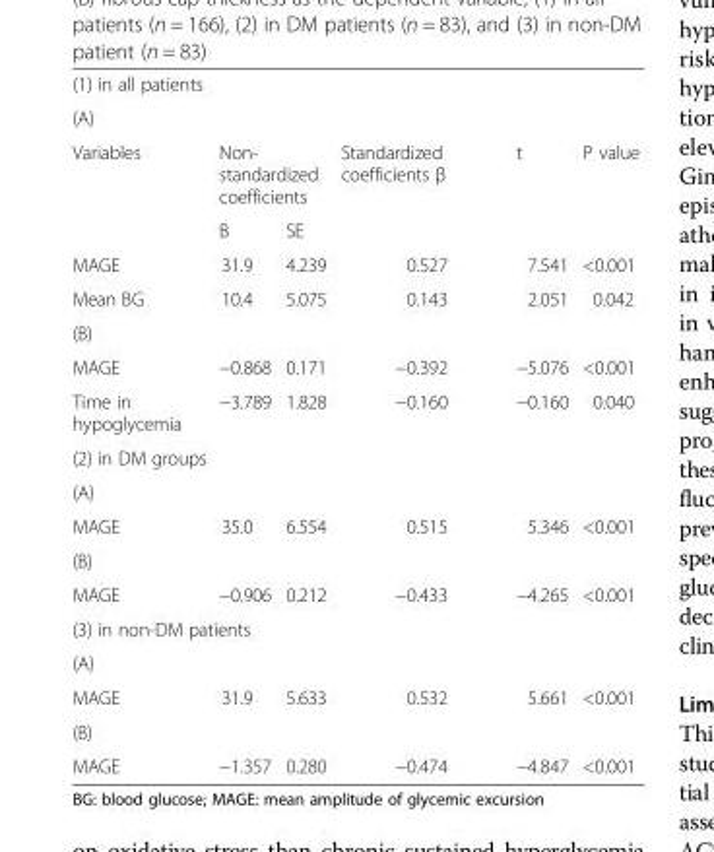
<table><tbody><tr><td colspan="6">(1) in all patients</td></tr><tr><td colspan="6">(A)</td></tr><tr><td rowspan="2">Variables</td><td colspan="2">Non- standardized coefficients</td><td rowspan="2">Standardized coefficients β</td><td rowspan="2">t</td><td rowspan="2">P value</td></tr><tr><td>B</td><td>SE</td></tr><tr><td>MAGE</td><td>31.9</td><td>4.239</td><td>0.527</td><td>7.541</td><td>&lt;0.001</td></tr><tr><td>Mean BG</td><td>10.4</td><td>5.075</td><td>0.143</td><td>2.051</td><td>0.042</td></tr><tr><td colspan="6">(B)</td></tr><tr><td>MAGE</td><td>−0.868</td><td>0.171</td><td>−0.392</td><td>−5.076</td><td>&lt;0.001</td></tr><tr><td>Time in hypoglycemia</td><td>−3.789</td><td>1.828</td><td>−0.160</td><td>−0.160</td><td>0.040</td></tr><tr><td colspan="6">(2) in DM groups</td></tr><tr><td colspan="6">(A)</td></tr><tr><td>MAGE</td><td>35.0</td><td>6.554</td><td>0.515</td><td>5.346</td><td>&lt;0.001</td></tr><tr><td colspan="6">(B)</td></tr><tr><td>MAGE</td><td>−0.906</td><td>0.212</td><td>−0.433</td><td>−4.265</td><td>&lt;0.001</td></tr><tr><td colspan="6">(3) in non-DM patients</td></tr><tr><td colspan="6">(A)</td></tr><tr><td>MAGE</td><td>31.9</td><td>5.633</td><td>0.532</td><td>5.661</td><td>&lt;0.001</td></tr><tr><td colspan="6">(B)</td></tr><tr><td>MAGE</td><td>−1.357</td><td>0.280</td><td>−0.474</td><td>−4.847</td><td>&lt;0.001</td></tr></tbody></table>